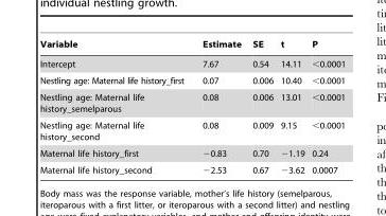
<table><thead><tr><td>Variable</td><td>Estimate</td><td>SE</td><td>t</td><td>P</td></tr></thead><tbody><tr><td>Intercept</td><td>7.67</td><td>0.54</td><td>14.11</td><td>&lt;0.0001</td></tr><tr><td>Nestling age: Maternal life history_first</td><td>0.07</td><td>0.006</td><td>10.40</td><td>&lt;0.0001</td></tr><tr><td>Nestling age: Maternal life history_semelparous</td><td>0.08</td><td>0.006</td><td>13.01</td><td>&lt;0.0001</td></tr><tr><td>Nestling age: Maternal life history_second</td><td>0.08</td><td>0.009</td><td>9.15</td><td>&lt;0.0001</td></tr><tr><td>Maternal life history_first</td><td>−0.83</td><td>0.70</td><td>−1.19</td><td>0.24</td></tr><tr><td>Maternal life history_second</td><td>−2.53</td><td>0.67</td><td>−3.62</td><td>0.0007</td></tr></tbody></table>